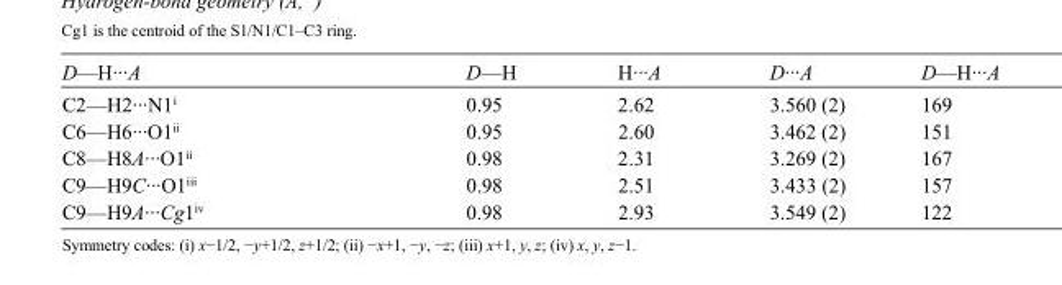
<table><tbody><tr><td>D—H···A</td><td>D—H</td><td>H···A</td><td>D···A</td><td>D—H···A</td></tr><tr><td>C2—H2···N1<sup>i</sup></td><td>0.95</td><td>2.62</td><td>3.560 (2)</td><td>169</td></tr><tr><td>C6—H6···O1<sup>ii</sup></td><td>0.95</td><td>2.60</td><td>3.462 (2)</td><td>151</td></tr><tr><td>C8—H8A···O1<sup>ii</sup></td><td>0.98</td><td>2.31</td><td>3.269 (2)</td><td>167</td></tr><tr><td>C9—H9C···O1<sup>iii</sup></td><td>0.98</td><td>2.51</td><td>3.433 (2)</td><td>157</td></tr><tr><td>C9—H9A···Cg1<sup>iv</sup></td><td>0.98</td><td>2.93</td><td>3.549 (2)</td><td>122</td></tr></tbody></table>